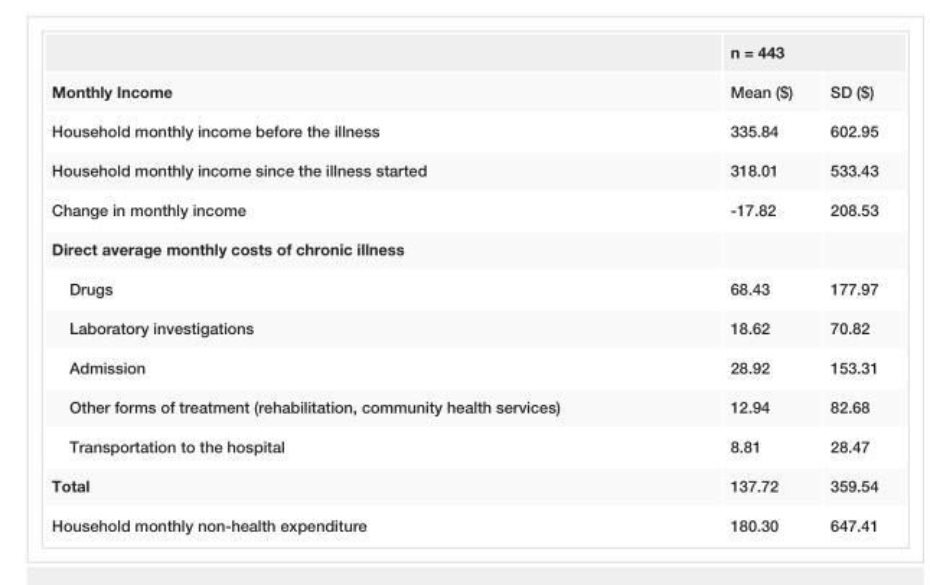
<table><thead><tr><td rowspan="2">Monthly Income</td><td colspan="2">n = 443</td></tr><tr><td>Mean ($)</td><td>SD ($)</td></tr></thead><tbody><tr><td>Household monthly income before the illness</td><td>335.84</td><td>602.95</td></tr><tr><td>Household monthly income since the illness started</td><td>318.01</td><td>533.43</td></tr><tr><td>Change in monthly income</td><td>-17.82</td><td>208.53</td></tr><tr><td colspan="3">Direct average monthly costs of chronic illness</td></tr><tr><td>Drugs</td><td>68.43</td><td>177.97</td></tr><tr><td>Laboratory investigations</td><td>18.62</td><td>70.82</td></tr><tr><td>Admission</td><td>28.92</td><td>153.31</td></tr><tr><td>Other forms of treatment (rehabilitation, community health services)</td><td>12.94</td><td>82.68</td></tr><tr><td>Transportation to the hospital</td><td>8.81</td><td>28.47</td></tr><tr><td>Total</td><td>137.72</td><td>359.54</td></tr><tr><td>Household monthly non-health expenditure</td><td>180.30</td><td>647.41</td></tr></tbody></table>